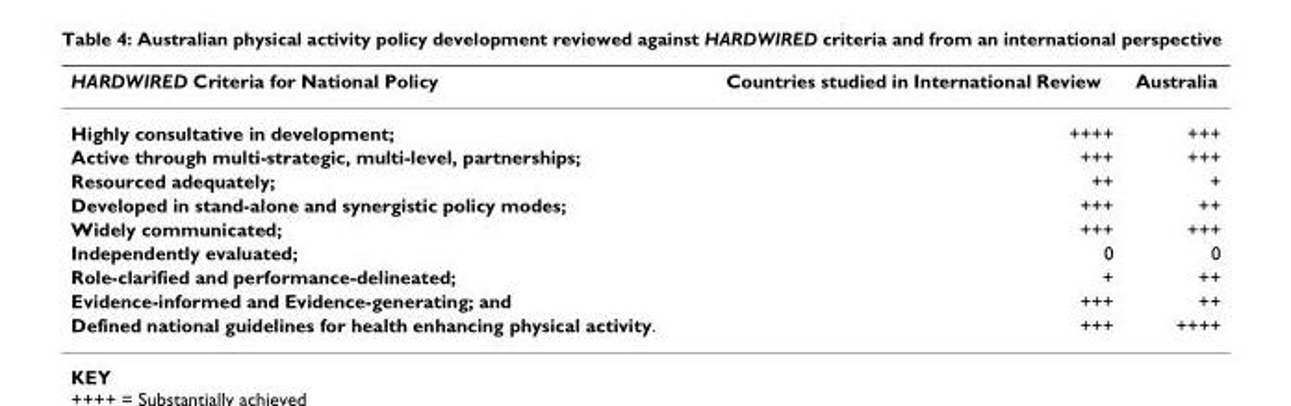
<table><thead><tr><td>HARDWIRED Criteria for National Policy</td><td>Countries studied in International Review</td><td>Australia</td></tr></thead><tbody><tr><td>Highly consultative in development;</td><td>++++</td><td>+++</td></tr><tr><td>Active through multi-strategic, multi-level, partnerships;</td><td>+++</td><td>+++</td></tr><tr><td>Resourced adequately;</td><td>++</td><td>+</td></tr><tr><td>Developed in stand-alone and synergistic policy modes;</td><td>+++</td><td>++</td></tr><tr><td>Widely communicated;</td><td>+++</td><td>+++</td></tr><tr><td>Independently evaluated;</td><td>0</td><td>0</td></tr><tr><td>Role-clarified and performance-delineated;</td><td>+</td><td>++</td></tr><tr><td>Evidence-informed and Evidence-generating; and</td><td>+++</td><td>++</td></tr><tr><td>Defined national guidelines for health enhancing physical activity.</td><td>+++</td><td>++++</td></tr></tbody></table>